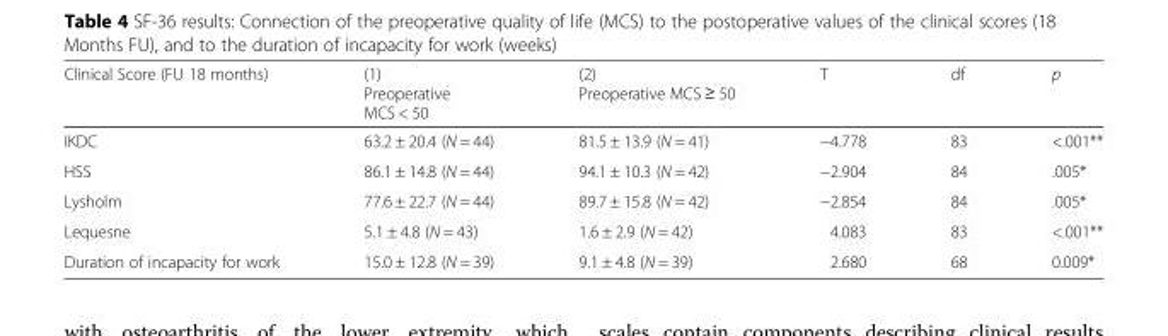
<table><thead><tr><td>Clinical Score (FU 18 months)</td><td>(1) Preoperative MCS &lt; 50</td><td>(2) Preoperative MCS ≥ 50</td><td>T</td><td>df</td><td>p</td></tr></thead><tbody><tr><td>IKDC</td><td>63.2 ± 20.4 (N = 44)</td><td>81.5 ± 13.9 (N = 41)</td><td>−4.778</td><td>83</td><td>&lt;.001**</td></tr><tr><td>HSS</td><td>86.1 ± 14.8 (N = 44)</td><td>94.1 ± 10.3 (N = 42)</td><td>−2.904</td><td>84</td><td>.005*</td></tr><tr><td>Lysholm</td><td>77.6 ± 22.7 (N = 44)</td><td>89.7 ± 15.8 (N = 42)</td><td>−2.854</td><td>84</td><td>.005*</td></tr><tr><td>Lequesne</td><td>5.1 ± 4.8 (N = 43)</td><td>1.6 ± 2.9 (N = 42)</td><td>4.083</td><td>83</td><td>&lt;.001**</td></tr><tr><td>Duration of incapacity for work</td><td>15.0 ± 12.8 (N = 39)</td><td>9.1 ± 4.8 (N = 39)</td><td>2.680</td><td>68</td><td>0.009*</td></tr></tbody></table>